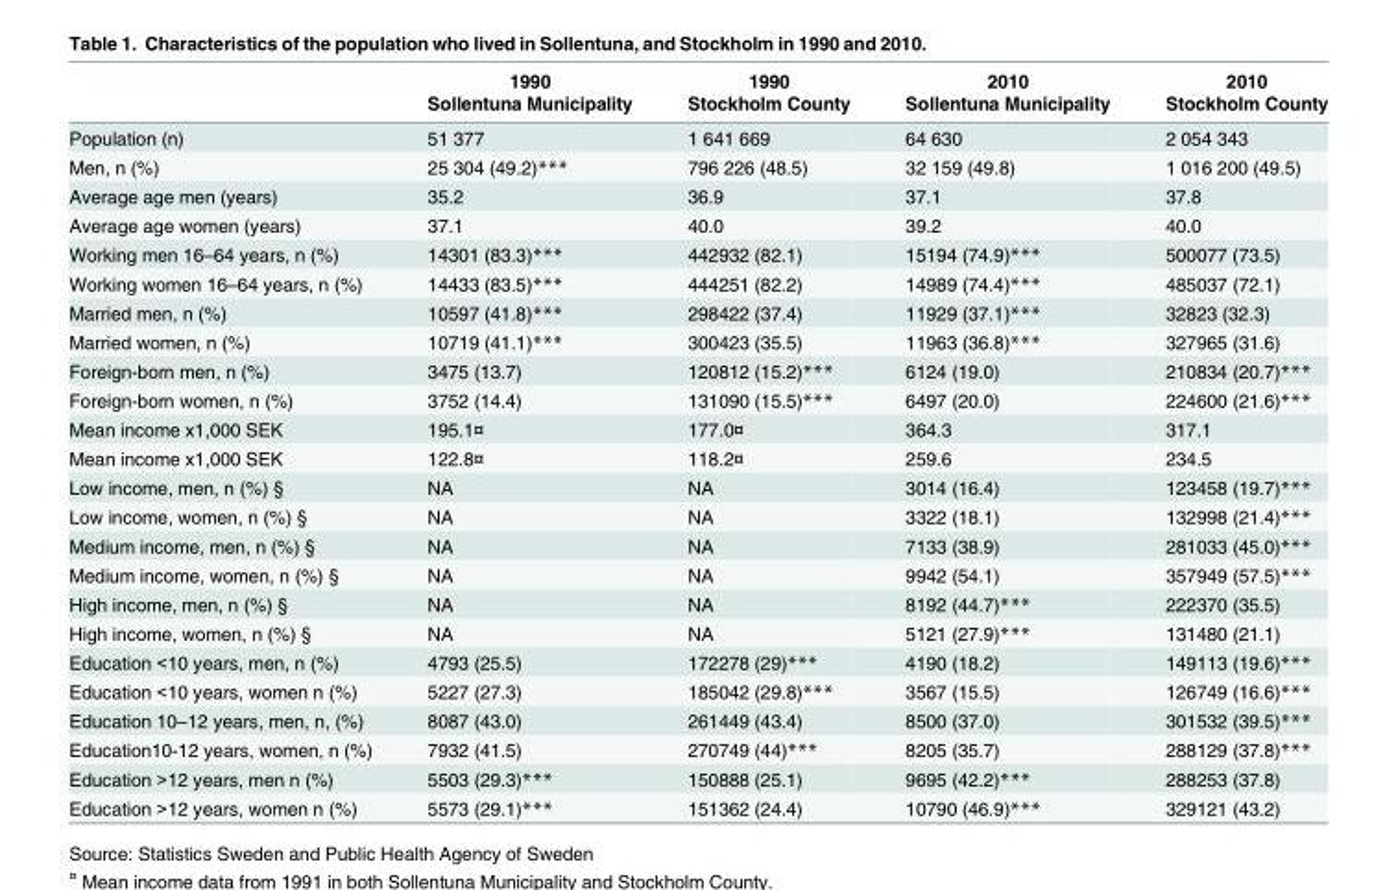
<table><thead><tr><td rowspan="2"></td><td rowspan="2">1990 Sollentuna Municipality</td><td rowspan="2">1990 Stockholm County</td><td rowspan="2">2010 Sollentuna Municipality</td><td rowspan="2">2010 Stockholm County</td></tr><tr></tr></thead><tbody><tr><td>Population (n)</td><td>51 377</td><td>1 641 669</td><td>64 630</td><td>2 054 343</td></tr><tr><td>Men, n (%)</td><td>25 304 (49.2)***</td><td>796 226 (48.5)</td><td>32 159 (49.8)</td><td>1 016 200 (49.5)</td></tr><tr><td>Average age men (years)</td><td>35.2</td><td>36.9</td><td>37.1</td><td>37.8</td></tr><tr><td>Average age women (years)</td><td>37.1</td><td>40.0</td><td>39.2</td><td>40.0</td></tr><tr><td>Working men 16–64 years, n (%)</td><td>14301 (83.3)***</td><td>442932 (82.1)</td><td>15194 (74.9)***</td><td>500077 (73.5)</td></tr><tr><td>Working women 16–64 years, n (%)</td><td>14433 (83.5)***</td><td>444251 (82.2)</td><td>14989 (74.4)***</td><td>485037 (72.1)</td></tr><tr><td>Married men, n (%)</td><td>10597 (41.8)***</td><td>298422 (37.4)</td><td>11929 (37.1)***</td><td>32823 (32.3)</td></tr><tr><td>Married women, n (%)</td><td>10719 (41.1)***</td><td>300423 (35.5)</td><td>11963 (36.8)***</td><td>327965 (31.6)</td></tr><tr><td>Foreign-born men, n (%)</td><td>3475 (13.7)</td><td>120812 (15.2)***</td><td>6124 (19.0)</td><td>210834 (20.7)***</td></tr><tr><td>Foreign-born women, n (%)</td><td>3752 (14.4)</td><td>131090 (15.5)***</td><td>6497 (20.0)</td><td>224600 (21.6)***</td></tr><tr><td>Mean income x1,000 SEK</td><td>195.1¤</td><td>177.0¤</td><td>364.3</td><td>317.1</td></tr><tr><td>Mean income x1,000 SEK</td><td>122.8¤</td><td>118.2¤</td><td>259.6</td><td>234.5</td></tr><tr><td>Low income, men, n (%) §</td><td>NA</td><td>NA</td><td>3014 (16.4)</td><td>123458 (19.7)***</td></tr><tr><td>Low income, women, n (%) §</td><td>NA</td><td>NA</td><td>3322 (18.1)</td><td>132998 (21.4)***</td></tr><tr><td>Medium income, men, n (%) §</td><td>NA</td><td>NA</td><td>7133 (38.9)</td><td>281033 (45.0)***</td></tr><tr><td>Medium income, women, n (%) §</td><td>NA</td><td>NA</td><td>9942 (54.1)</td><td>357949 (57.5)***</td></tr><tr><td>High income, men, n (%) §</td><td>NA</td><td>NA</td><td>8192 (44.7)***</td><td>222370 (35.5)</td></tr><tr><td>High income, women, n (%) §</td><td>NA</td><td>NA</td><td>5121 (27.9)***</td><td>131480 (21.1)</td></tr><tr><td>Education &lt;10 years, men, n (%)</td><td>4793 (25.5)</td><td>172278 (29)***</td><td>4190 (18.2)</td><td>149113 (19.6)***</td></tr><tr><td>Education &lt;10 years, women n (%)</td><td>5227 (27.3)</td><td>185042 (29.8)***</td><td>3567 (15.5)</td><td>126749 (16.6)***</td></tr><tr><td>Education 10–12 years, men, n, (%)</td><td>8087 (43.0)</td><td>261449 (43.4)</td><td>8500 (37.0)</td><td>301532 (39.5)***</td></tr><tr><td>Education10-12 years, women, n (%)</td><td>7932 (41.5)</td><td>270749 (44)***</td><td>8205 (35.7)</td><td>288129 (37.8)***</td></tr><tr><td>Education &gt;12 years, men n (%)</td><td>5503 (29.3)***</td><td>150888 (25.1)</td><td>9695 (42.2)***</td><td>288253 (37.8)</td></tr><tr><td>Education &gt;12 years, women n (%)</td><td>5573 (29.1)***</td><td>151362 (24.4)</td><td>10790 (46.9)***</td><td>329121 (43.2)</td></tr></tbody></table>